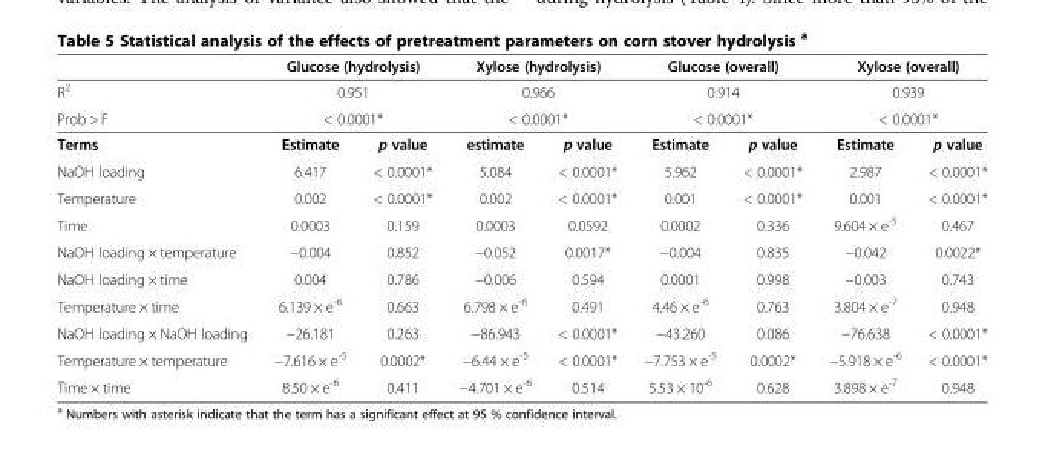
<table><thead><tr><td rowspan="4">R<sup>2</sup> Prob &gt; F Terms</td><td rowspan="3" colspan="2">Glucose (hydrolysis) 0.951 &lt; 0.0001*</td><td rowspan="3" colspan="2">Xylose (hydrolysis) 0.966 &lt; 0.0001*</td><td rowspan="3" colspan="2">Glucose (overall) 0.914 &lt; 0.0001*</td><td rowspan="3" colspan="2">Xylose (overall) 0.939 &lt; 0.0001*</td></tr><tr></tr><tr></tr><tr><td>Estimate</td><td>p value</td><td>estimate</td><td>p value</td><td>Estimate</td><td>p value</td><td>Estimate</td><td>p value</td></tr></thead><tbody><tr><td>NaOH loading</td><td>6.417</td><td>&lt; 0.0001*</td><td>5.084</td><td>&lt; 0.0001*</td><td>5.962</td><td>&lt; 0.0001*</td><td>2.987</td><td>&lt; 0.0001*</td></tr><tr><td>Temperature</td><td>0.002</td><td>&lt; 0.0001*</td><td>0.002</td><td>&lt; 0.0001*</td><td>0.001</td><td>&lt; 0.0001*</td><td>0.001</td><td>&lt; 0.0001*</td></tr><tr><td>Time</td><td>0.0003</td><td>0.159</td><td>0.0003</td><td>0.0592</td><td>0.0002</td><td>0.336</td><td>9.604 × e<sup>-5</sup></td><td>0.467</td></tr><tr><td>NaOH loading × temperature</td><td>−0.004</td><td>0.852</td><td>−0.052</td><td>0.0017*</td><td>−0.004</td><td>0.835</td><td>−0.042</td><td>0.0022*</td></tr><tr><td>NaOH loading × time</td><td>0.004</td><td>0.786</td><td>−0.006</td><td>0.594</td><td>0.0001</td><td>0.998</td><td>−0.003</td><td>0.743</td></tr><tr><td>Temperature × time</td><td>6.139 × e<sup>-6</sup></td><td>0.663</td><td>6.798 × e<sup>-6</sup></td><td>0.491</td><td>4.46 × e<sup>-6</sup></td><td>0.763</td><td>3.804 × e<sup>-7</sup></td><td>0.948</td></tr><tr><td>NaOH loading × NaOH loading</td><td>−26.181</td><td>0.263</td><td>−86.943</td><td>&lt; 0.0001*</td><td>−43.260</td><td>0.086</td><td>−76.638</td><td>&lt; 0.0001*</td></tr><tr><td>Temperature × temperature</td><td>−7.616 × e<sup>-5</sup></td><td>0.0002*</td><td>−6.44 × e<sup>-5</sup></td><td>&lt; 0.0001*</td><td>−7.753 × e<sup>-5</sup></td><td>0.0002*</td><td>−5.918 × e<sup>-6</sup></td><td>&lt; 0.0001*</td></tr><tr><td>Time × time</td><td>8.50 × e<sup>-6</sup></td><td>0.411</td><td>−4.701 × e<sup>-6</sup></td><td>0.514</td><td>5.53 × 10<sup>-6</sup></td><td>0.628</td><td>3.898 × e<sup>-7</sup></td><td>0.948</td></tr></tbody></table>